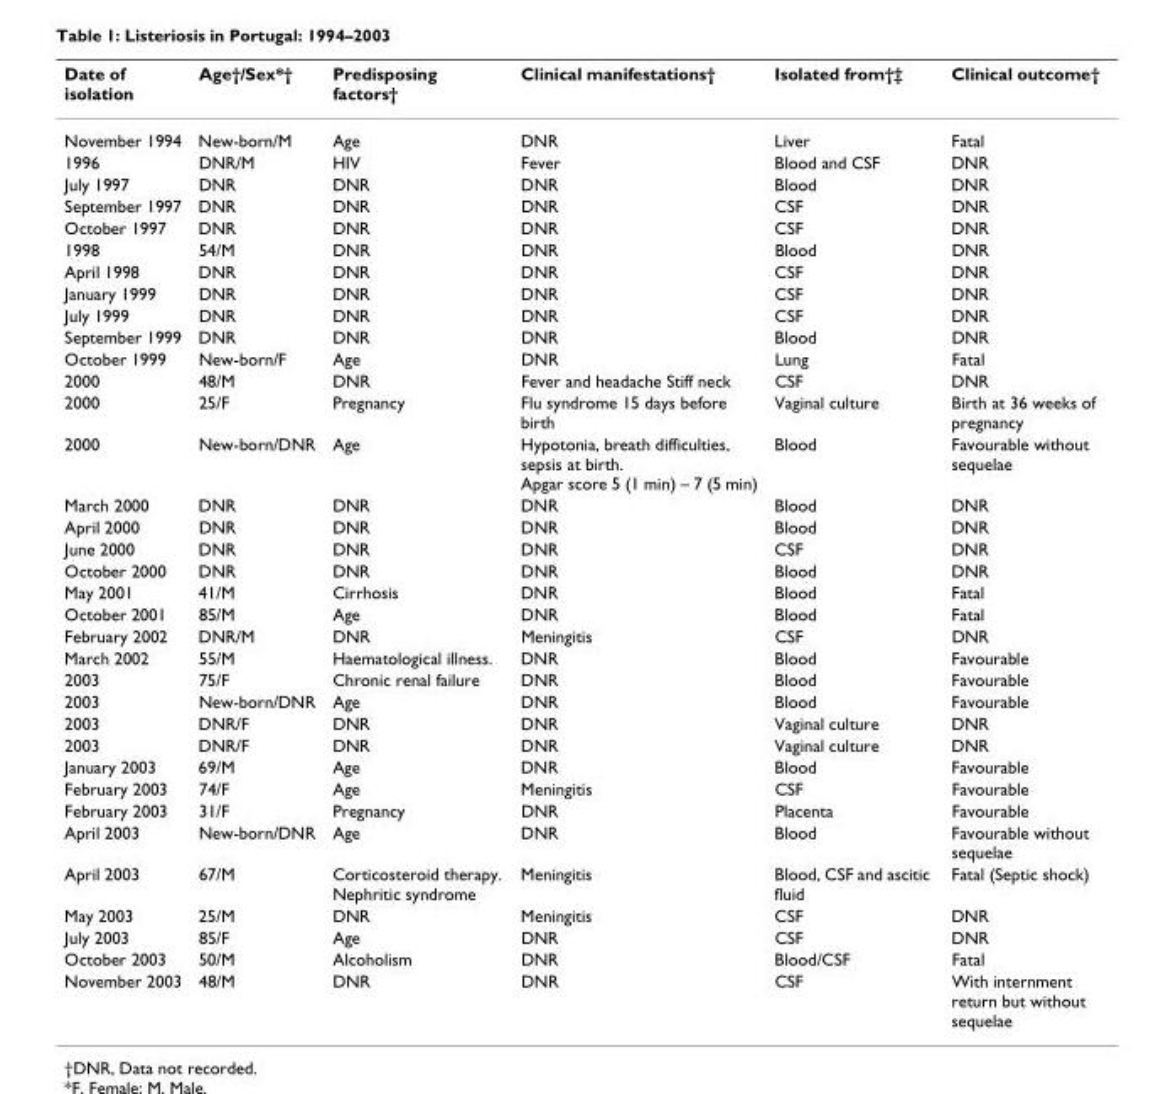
<table><thead><tr><td>Date of isolation</td><td>Age†/Sex*†</td><td>Predisposing factors†</td><td>Clinical manifestations†</td><td>Isolated from†‡</td><td>Clinical outcome†</td></tr></thead><tbody><tr><td>November 1994</td><td>New-born/M</td><td>Age</td><td>DNR</td><td>Liver</td><td>Fatal</td></tr><tr><td>1996</td><td>DNR/M</td><td>HIV</td><td>Fever</td><td>Blood and CSF</td><td>DNR</td></tr><tr><td>July 1997</td><td>DNR</td><td>DNR</td><td>DNR</td><td>Blood</td><td>DNR</td></tr><tr><td>September 1997</td><td>DNR</td><td>DNR</td><td>DNR</td><td>CSF</td><td>DNR</td></tr><tr><td>October 1997</td><td>DNR</td><td>DNR</td><td>DNR</td><td>CSF</td><td>DNR</td></tr><tr><td>1998</td><td>54/M</td><td>DNR</td><td>DNR</td><td>Blood</td><td>DNR</td></tr><tr><td>April 1998</td><td>DNR</td><td>DNR</td><td>DNR</td><td>CSF</td><td>DNR</td></tr><tr><td>January 1999</td><td>DNR</td><td>DNR</td><td>DNR</td><td>CSF</td><td>DNR</td></tr><tr><td>July 1999</td><td>DNR</td><td>DNR</td><td>DNR</td><td>CSF</td><td>DNR</td></tr><tr><td>September 1999</td><td>DNR</td><td>DNR</td><td>DNR</td><td>Blood</td><td>DNR</td></tr><tr><td>October 1999</td><td>New-born/F</td><td>Age</td><td>DNR</td><td>Lung</td><td>Fatal</td></tr><tr><td>2000</td><td>48/M</td><td>DNR</td><td>Fever and headache Stiff neck</td><td>CSF</td><td>DNR</td></tr><tr><td>2000</td><td>25/F</td><td>Pregnancy</td><td>Flu syndrome 15 days before birth</td><td>Vaginal culture</td><td>Birth at 36 weeks of pregnancy</td></tr><tr><td>2000</td><td>New-born/DNR</td><td>Age</td><td>Hypotonia, breath difficulties, sepsis at birth. Apgar score 5 (1 min) – 7 (5 min)</td><td>Blood</td><td>Favourable without sequelae</td></tr><tr><td>March 2000</td><td>DNR</td><td>DNR</td><td>DNR</td><td>Blood</td><td>DNR</td></tr><tr><td>April 2000</td><td>DNR</td><td>DNR</td><td>DNR</td><td>Blood</td><td>DNR</td></tr><tr><td>June 2000</td><td>DNR</td><td>DNR</td><td>DNR</td><td>CSF</td><td>DNR</td></tr><tr><td>October 2000</td><td>DNR</td><td>DNR</td><td>DNR</td><td>Blood</td><td>DNR</td></tr><tr><td>May 2001</td><td>41/M</td><td>Cirrhosis</td><td>DNR</td><td>Blood</td><td>Fatal</td></tr><tr><td>October 2001</td><td>85/M</td><td>Age</td><td>DNR</td><td>Blood</td><td>Fatal</td></tr><tr><td>February 2002</td><td>DNR/M</td><td>DNR</td><td>Meningitis</td><td>CSF</td><td>DNR</td></tr><tr><td>March 2002</td><td>55/M</td><td>Haematological illness.</td><td>DNR</td><td>Blood</td><td>Favourable</td></tr><tr><td>2003</td><td>75/F</td><td>Chronic renal failure</td><td>DNR</td><td>Blood</td><td>Favourable</td></tr><tr><td>2003</td><td>New-born/DNR</td><td>Age</td><td>DNR</td><td>Blood</td><td>Favourable</td></tr><tr><td>2003</td><td>DNR/F</td><td>DNR</td><td>DNR</td><td>Vaginal culture</td><td>DNR</td></tr><tr><td>2003</td><td>DNR/F</td><td>DNR</td><td>DNR</td><td>Vaginal culture</td><td>DNR</td></tr><tr><td>January 2003</td><td>69/M</td><td>Age</td><td>DNR</td><td>Blood</td><td>Favourable</td></tr><tr><td>February 2003</td><td>74/F</td><td>Age</td><td>Meningitis</td><td>CSF</td><td>Favourable</td></tr><tr><td>February 2003</td><td>31/F</td><td>Pregnancy</td><td>DNR</td><td>Placenta</td><td>Favourable</td></tr><tr><td>April 2003</td><td>New-born/DNR</td><td>Age</td><td>DNR</td><td>Blood</td><td>Favourable without sequelae</td></tr><tr><td>April 2003</td><td>67/M</td><td>Corticosteroid therapy. Nephritic syndrome</td><td>Meningitis</td><td>Blood, CSF and ascitic fluid</td><td>Fatal (Septic shock)</td></tr><tr><td>May 2003</td><td>25/M</td><td>DNR</td><td>Meningitis</td><td>CSF</td><td>DNR</td></tr><tr><td>July 2003</td><td>85/F</td><td>Age</td><td>DNR</td><td>CSF</td><td>DNR</td></tr><tr><td>October 2003</td><td>50/M</td><td>Alcoholism</td><td>DNR</td><td>Blood/CSF</td><td>Fatal</td></tr><tr><td>November 2003</td><td>48/M</td><td>DNR</td><td>DNR</td><td>CSF</td><td>With internment return but without sequelae</td></tr></tbody></table>